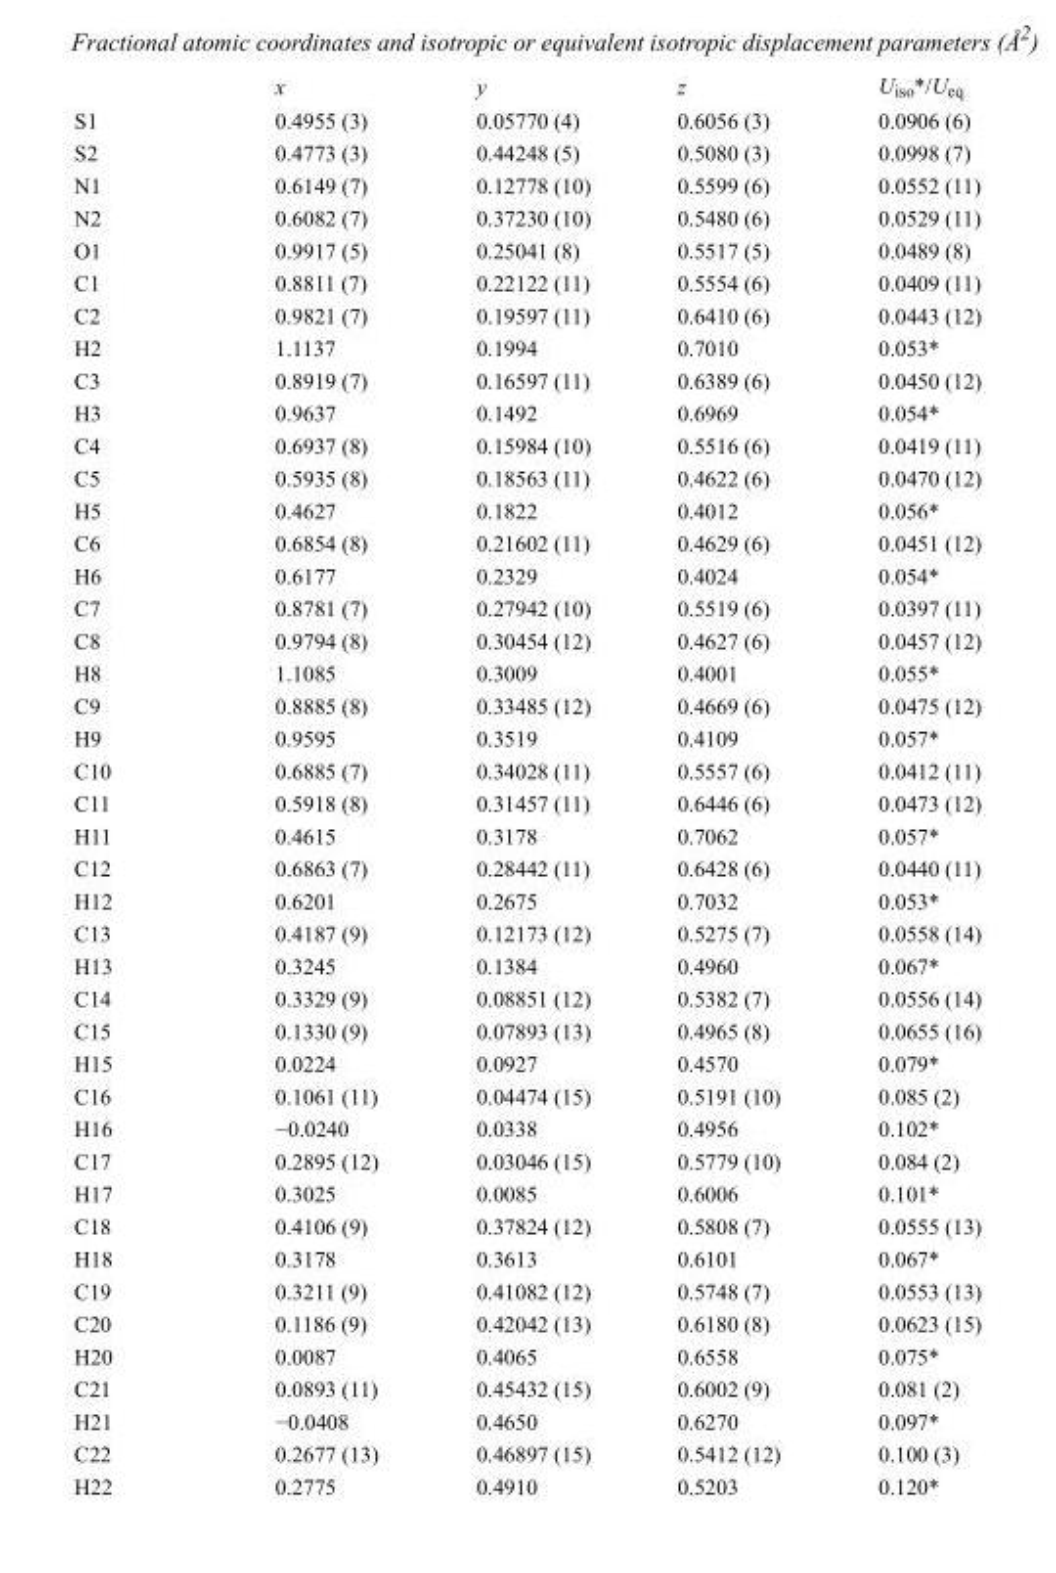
<table><thead><tr><td></td><td>x</td><td>y</td><td>z</td><td>U<sub>iso</sub>*/U<sub>eq</sub></td></tr></thead><tbody><tr><td>S1</td><td>0.4955 (3)</td><td>0.05770 (4)</td><td>0.6056 (3)</td><td>0.0906 (6)</td></tr><tr><td>S2</td><td>0.4773 (3)</td><td>0.44248 (5)</td><td>0.5080 (3)</td><td>0.0998 (7)</td></tr><tr><td>N1</td><td>0.6149 (7)</td><td>0.12778 (10)</td><td>0.5599 (6)</td><td>0.0552 (11)</td></tr><tr><td>N2</td><td>0.6082 (7)</td><td>0.37230 (10)</td><td>0.5480 (6)</td><td>0.0529 (11)</td></tr><tr><td>O1</td><td>0.9917 (5)</td><td>0.25041 (8)</td><td>0.5517 (5)</td><td>0.0489 (8)</td></tr><tr><td>C1</td><td>0.8811 (7)</td><td>0.22122 (11)</td><td>0.5554 (6)</td><td>0.0409 (11)</td></tr><tr><td>C2</td><td>0.9821 (7)</td><td>0.19597 (11)</td><td>0.6410 (6)</td><td>0.0443 (12)</td></tr><tr><td>H2</td><td>1.1137</td><td>0.1994</td><td>0.7010</td><td>0.053*</td></tr><tr><td>C3</td><td>0.8919 (7)</td><td>0.16597 (11)</td><td>0.6389 (6)</td><td>0.0450 (12)</td></tr><tr><td>H3</td><td>0.9637</td><td>0.1492</td><td>0.6969</td><td>0.054*</td></tr><tr><td>C4</td><td>0.6937 (8)</td><td>0.15984 (10)</td><td>0.5516 (6)</td><td>0.0419 (11)</td></tr><tr><td>C5</td><td>0.5935 (8)</td><td>0.18563 (11)</td><td>0.4622 (6)</td><td>0.0470 (12)</td></tr><tr><td>H5</td><td>0.4627</td><td>0.1822</td><td>0.4012</td><td>0.056*</td></tr><tr><td>C6</td><td>0.6854 (8)</td><td>0.21602 (11)</td><td>0.4629 (6)</td><td>0.0451 (12)</td></tr><tr><td>H6</td><td>0.6177</td><td>0.2329</td><td>0.4024</td><td>0.054*</td></tr><tr><td>C7</td><td>0.8781 (7)</td><td>0.27942 (10)</td><td>0.5519 (6)</td><td>0.0397 (11)</td></tr><tr><td>C8</td><td>0.9794 (8)</td><td>0.30454 (12)</td><td>0.4627 (6)</td><td>0.0457 (12)</td></tr><tr><td>H8</td><td>1.1085</td><td>0.3009</td><td>0.4001</td><td>0.055*</td></tr><tr><td>C9</td><td>0.8885 (8)</td><td>0.33485 (12)</td><td>0.4669 (6)</td><td>0.0475 (12)</td></tr><tr><td>H9</td><td>0.9595</td><td>0.3519</td><td>0.4109</td><td>0.057*</td></tr><tr><td>C10</td><td>0.6885 (7)</td><td>0.34028 (11)</td><td>0.5557 (6)</td><td>0.0412 (11)</td></tr><tr><td>C11</td><td>0.5918 (8)</td><td>0.31457 (11)</td><td>0.6446 (6)</td><td>0.0473 (12)</td></tr><tr><td>H11</td><td>0.4615</td><td>0.3178</td><td>0.7062</td><td>0.057*</td></tr><tr><td>C12</td><td>0.6863 (7)</td><td>0.28442 (11)</td><td>0.6428 (6)</td><td>0.0440 (11)</td></tr><tr><td>H12</td><td>0.6201</td><td>0.2675</td><td>0.7032</td><td>0.053*</td></tr><tr><td>C13</td><td>0.4187 (9)</td><td>0.12173 (12)</td><td>0.5275 (7)</td><td>0.0558 (14)</td></tr><tr><td>H13</td><td>0.3245</td><td>0.1384</td><td>0.4960</td><td>0.067*</td></tr><tr><td>C14</td><td>0.3329 (9)</td><td>0.08851 (12)</td><td>0.5382 (7)</td><td>0.0556 (14)</td></tr><tr><td>C15</td><td>0.1330 (9)</td><td>0.07893 (13)</td><td>0.4965 (8)</td><td>0.0655 (16)</td></tr><tr><td>H15</td><td>0.0224</td><td>0.0927</td><td>0.4570</td><td>0.079*</td></tr><tr><td>C16</td><td>0.1061 (11)</td><td>0.04474 (15)</td><td>0.5191 (10)</td><td>0.085 (2)</td></tr><tr><td>H16</td><td>−0.0240</td><td>0.0338</td><td>0.4956</td><td>0.102*</td></tr><tr><td>C17</td><td>0.2895 (12)</td><td>0.03046 (15)</td><td>0.5779 (10)</td><td>0.084 (2)</td></tr><tr><td>H17</td><td>0.3025</td><td>0.0085</td><td>0.6006</td><td>0.101*</td></tr><tr><td>C18</td><td>0.4106 (9)</td><td>0.37824 (12)</td><td>0.5808 (7)</td><td>0.0555 (13)</td></tr><tr><td>H18</td><td>0.3178</td><td>0.3613</td><td>0.6101</td><td>0.067*</td></tr><tr><td>C19</td><td>0.3211 (9)</td><td>0.41082 (12)</td><td>0.5748 (7)</td><td>0.0553 (13)</td></tr><tr><td>C20</td><td>0.1186 (9)</td><td>0.42042 (13)</td><td>0.6180 (8)</td><td>0.0623 (15)</td></tr><tr><td>H20</td><td>0.0087</td><td>0.4065</td><td>0.6558</td><td>0.075*</td></tr><tr><td>C21</td><td>0.0893 (11)</td><td>0.45432 (15)</td><td>0.6002 (9)</td><td>0.081 (2)</td></tr><tr><td>H21</td><td>−0.0408</td><td>0.4650</td><td>0.6270</td><td>0.097*</td></tr><tr><td>C22</td><td>0.2677 (13)</td><td>0.46897 (15)</td><td>0.5412 (12)</td><td>0.100 (3)</td></tr><tr><td>H22</td><td>0.2775</td><td>0.4910</td><td>0.5203</td><td>0.120*</td></tr></tbody></table>